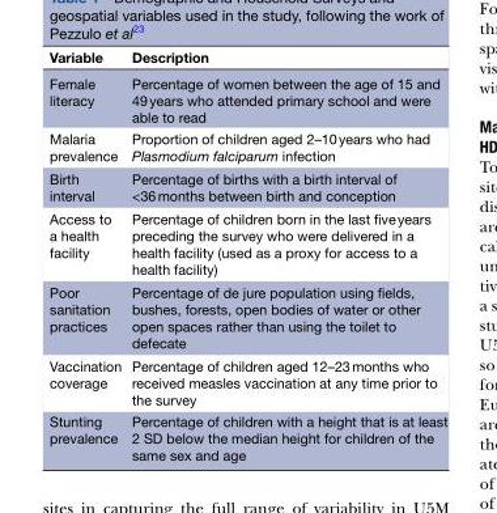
<table><thead><tr><td>Variable</td><td>Description</td></tr></thead><tbody><tr><td>Female literacy</td><td>Percentage of women between the age of 15 and 49 years who attended primary school and were able to read</td></tr><tr><td>Malaria prevalence</td><td>Proportion of children aged 2–10 years who had Plasmodium falciparum infection</td></tr><tr><td>Birth interval</td><td>Percentage of births with a birth interval of &lt;36 months between birth and conception</td></tr><tr><td>Access to a health facility</td><td>Percentage of children born in the last five years preceding the survey who were delivered in a health facility (used as a proxy for access to a health facility)</td></tr><tr><td>Poor sanitation practices</td><td>Percentage of de jure population using fields, bushes, forests, open bodies of water or other open spaces rather than using the toilet to defecate</td></tr><tr><td>Vaccination coverage</td><td>Percentage of children aged 12–23 months who received measles vaccination at any time prior to the survey</td></tr><tr><td>Stunting prevalence</td><td>Percentage of children with a height that is at least 2 SD below the median height for children of the same sex and age</td></tr></tbody></table>